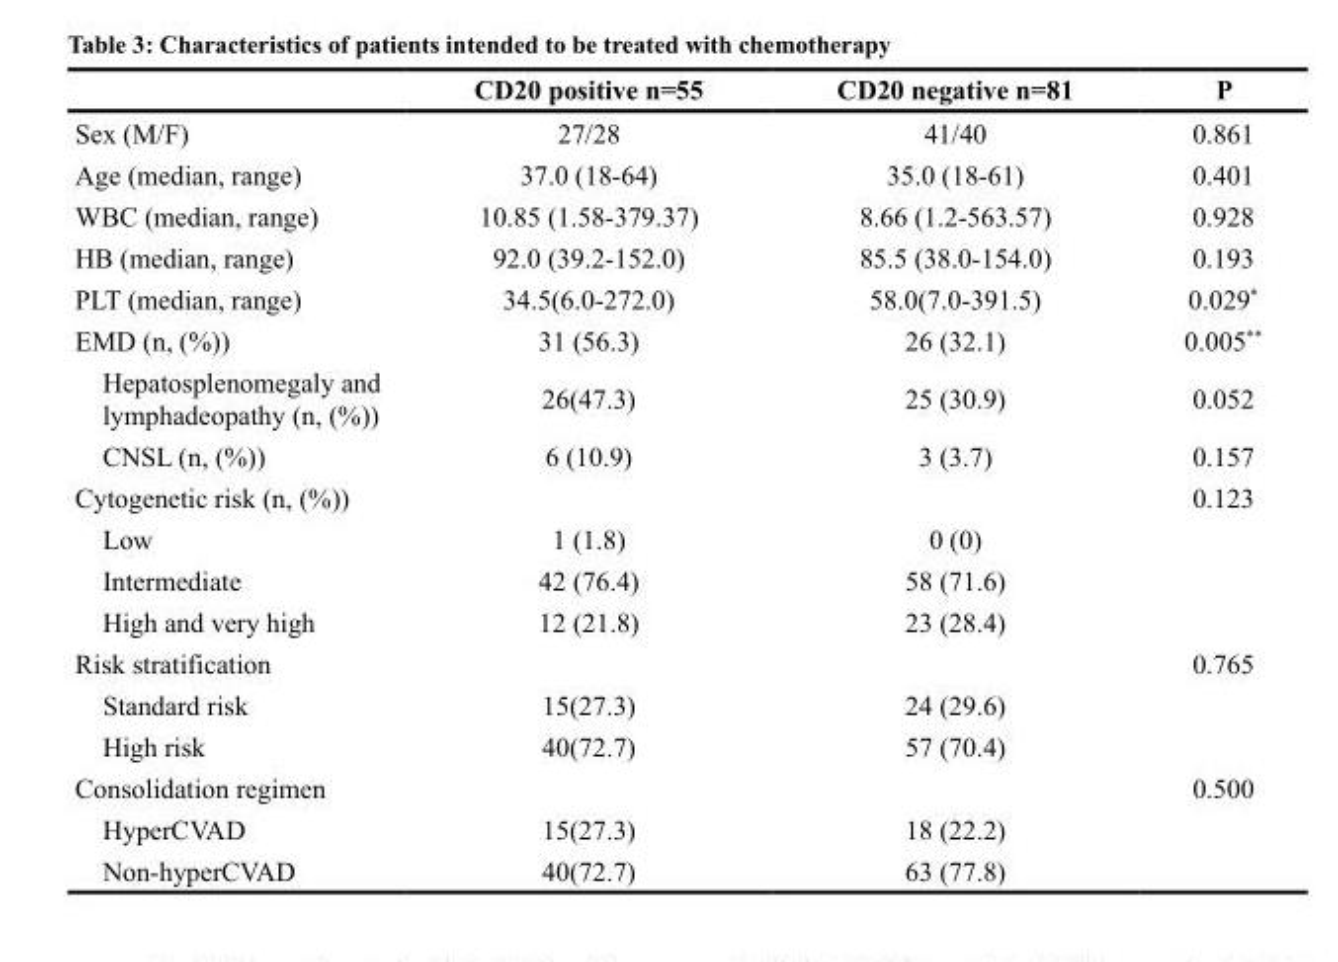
<table><thead><tr><td></td><td>CD20 positive n=55</td><td>CD20 negative n=81</td><td>P</td></tr></thead><tbody><tr><td>Sex (M/F)</td><td>27/28</td><td>41/40</td><td>0.861</td></tr><tr><td>Age (median, range)</td><td>37.0 (18-64)</td><td>35.0 (18-61)</td><td>0.401</td></tr><tr><td>WBC (median, range)</td><td>10.85 (1.58-379.37)</td><td>8.66 (1.2-563.57)</td><td>0.928</td></tr><tr><td>HB (median, range)</td><td>92.0 (39.2-152.0)</td><td>85.5 (38.0-154.0)</td><td>0.193</td></tr><tr><td>PLT (median, range)</td><td>34.5(6.0-272.0)</td><td>58.0(7.0-391.5)</td><td>0.029*</td></tr><tr><td>EMD (n, (%))</td><td>31 (56.3)</td><td>26 (32.1)</td><td>0.005**</td></tr><tr><td>Hepatosplenomegaly and lymphadeopathy (n, (%))</td><td>26(47.3)</td><td>25 (30.9)</td><td>0.052</td></tr><tr><td>CNSL (n, (%))</td><td>6 (10.9)</td><td>3 (3.7)</td><td>0.157</td></tr><tr><td>Cytogenetic risk (n, (%))</td><td></td><td></td><td>0.123</td></tr><tr><td>Low</td><td>1 (1.8)</td><td>0 (0)</td><td></td></tr><tr><td>Intermediate</td><td>42 (76.4)</td><td>58 (71.6)</td><td></td></tr><tr><td>High and very high</td><td>12 (21.8)</td><td>23 (28.4)</td><td></td></tr><tr><td>Risk stratification</td><td></td><td></td><td>0.765</td></tr><tr><td>Standard risk</td><td>15(27.3)</td><td>24 (29.6)</td><td></td></tr><tr><td>High risk</td><td>40(72.7)</td><td>57 (70.4)</td><td></td></tr><tr><td>Consolidation regimen</td><td></td><td></td><td>0.500</td></tr><tr><td>HyperCVAD</td><td>15(27.3)</td><td>18 (22.2)</td><td></td></tr><tr><td>Non-hyperCVAD</td><td>40(72.7)</td><td>63 (77.8)</td><td></td></tr></tbody></table>